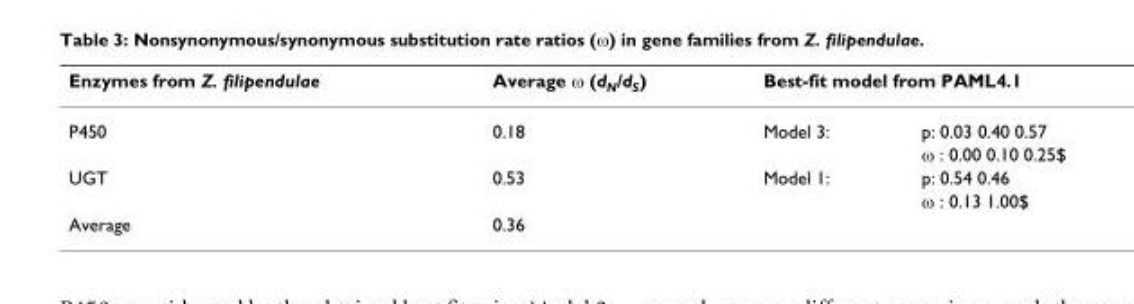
<table><thead><tr><td rowspan="2">Enzymes from Z. filipendulae P450</td><td rowspan="2">Average ω (d<sub>N</sub>/d<sub>S</sub>) 0.18</td><td colspan="2">Best-fit model from PAML4.1</td></tr><tr><td>Model 3:</td><td>p: 0.03 0.40 0.57</td></tr></thead><tbody><tr><td></td><td></td><td></td><td>ω : 0.00 0.10 0.25$</td></tr><tr><td rowspan="2">UGT</td><td>0.53</td><td>Model 1:</td><td>p: 0.54 0.46</td></tr><tr><td></td><td></td><td>ω : 0.13 1.00$</td></tr><tr><td>Average</td><td>0.36</td><td></td><td></td></tr></tbody></table>